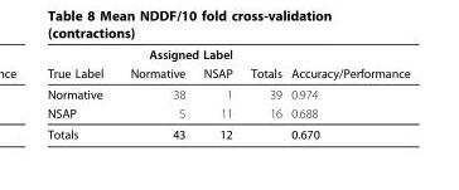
<table><thead><tr><td rowspan="2">True Label</td><td colspan="2">Assigned Label</td><td rowspan="2">Totals</td><td rowspan="2">Accuracy/Performance</td></tr><tr><td>Normative</td><td>NSAP</td></tr></thead><tbody><tr><td>Normative</td><td>38</td><td>1</td><td>39</td><td>0.974</td></tr><tr><td>NSAP</td><td>5</td><td>11</td><td>16</td><td>0.688</td></tr><tr><td>Totals</td><td>43</td><td>12</td><td></td><td>0.670</td></tr></tbody></table>